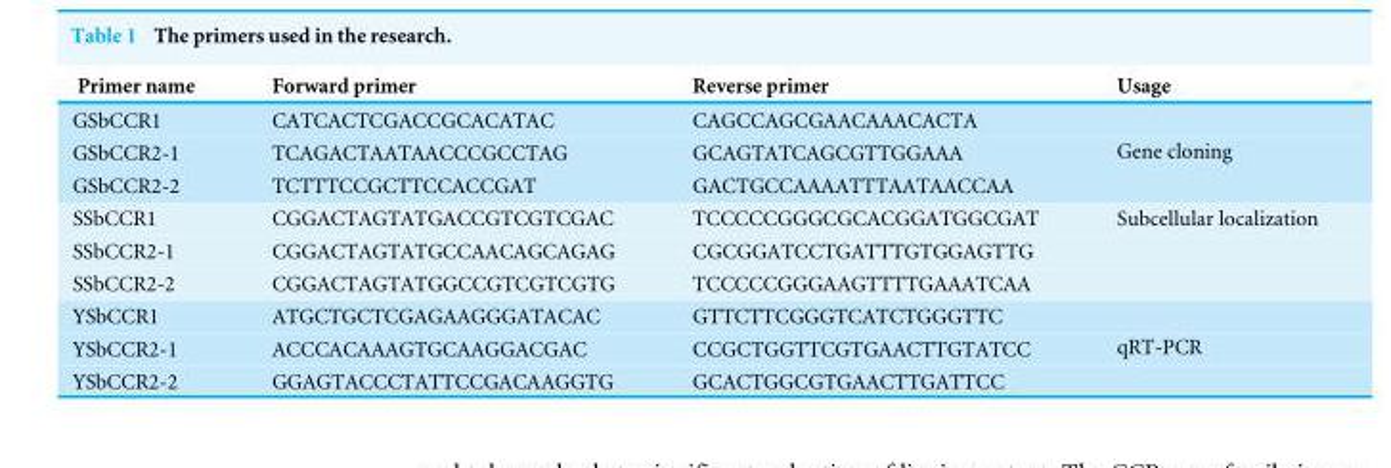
<table><thead><tr><td>Primer name</td><td>Forward primer</td><td>Reverse primer</td><td>Usage</td></tr></thead><tbody><tr><td>GSbCCR1</td><td>CATCACTCGACCGCACATAC</td><td>CAGCCAGCGAACAAACACTA</td><td rowspan="3">Gene cloning</td></tr><tr><td>GSbCCR2-1</td><td>TCAGACTAATAACCCGCCTAG</td><td>GCAGTATCAGCGTTGGAAA</td></tr><tr><td>GSbCCR2-2</td><td>TCTTTCCGCTTCCACCGAT</td><td>GACTGCCAAAATTTAATAACCAA</td></tr><tr><td>SSbCCR1</td><td>CGGACTAGTATGACCGTCGTCGAC</td><td>TCCCCCGGGCGCACGGATGGCGAT</td><td>Subcellular localization</td></tr><tr><td>SSbCCR2-1</td><td>CGGACTAGTATGCCAACAGCAGAG</td><td>CGCGGATCCTGATTTGTGGAGTTG</td><td></td></tr><tr><td>SSbCCR2-2</td><td>CGGACTAGTATGGCCGTCGTCGTG</td><td>TCCCCCGGGAAGTTTTGAAATCAA</td><td></td></tr><tr><td>YSbCCR1</td><td>ATGCTGCTCGAGAAGGGATACAC</td><td>GTTCTTCGGGTCATCTGGGTTC</td><td rowspan="3">qRT-PCR</td></tr><tr><td>YSbCCR2-1</td><td>ACCCACAAAGTGCAAGGACGAC</td><td>CCGCTGGTTCGTGAACTTGTATCC</td></tr><tr><td>YSbCCR2-2</td><td>GGAGTACCCTATTCCGACAAGGTG</td><td>GCACTGGCGTGAACTTGATTCC</td></tr></tbody></table>